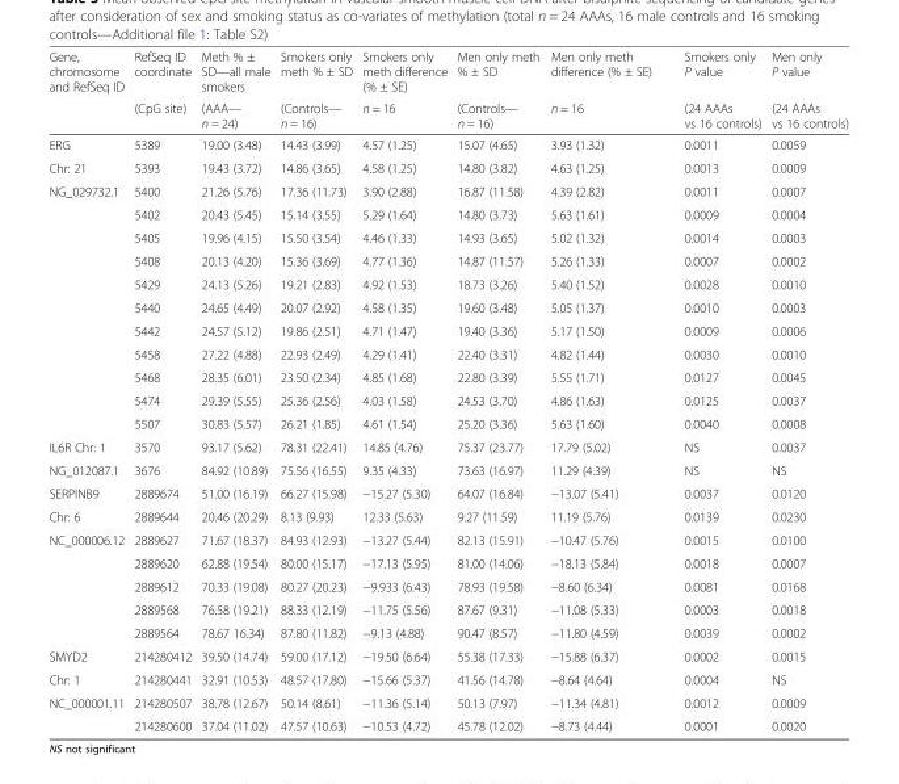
<table><thead><tr><td rowspan="2">Gene, chromosome and RefSeq ID</td><td rowspan="2">RefSeq ID coordinate (CpG site)</td><td rowspan="2">Meth % ± SD—all male smokers (AAA— n = 24)</td><td rowspan="2">Smokers only meth % ± SD (Controls— n = 16)</td><td rowspan="2">Smokers only meth difference (% ± SE) n = 16</td><td rowspan="2">Men only meth % ± SD (Controls— n = 16)</td><td rowspan="2">Men only meth difference (% ± SE) n = 16</td><td rowspan="2">Smokers only P value (24 AAAs vs 16 controls)</td><td rowspan="2">Men only P value (24 AAAs vs 16 controls)</td></tr><tr></tr></thead><tbody><tr><td>ERG</td><td>5389</td><td>19.00 (3.48)</td><td>14.43 (3.99)</td><td>4.57 (1.25)</td><td>15.07 (4.65)</td><td>3.93 (1.32)</td><td>0.0011</td><td>0.0059</td></tr><tr><td>Chr: 21</td><td>5393</td><td>19.43 (3.72)</td><td>14.86 (3.65)</td><td>4.58 (1.25)</td><td>14.80 (3.82)</td><td>4.63 (1.25)</td><td>0.0013</td><td>0.0009</td></tr><tr><td rowspan="11">NG_029732.1</td><td>5400</td><td>21.26 (5.76)</td><td>17.36 (11.73)</td><td>3.90 (2.88)</td><td>16.87 (11.58)</td><td>4.39 (2.82)</td><td>0.0011</td><td>0.0007</td></tr><tr><td>5402</td><td>20.43 (5.45)</td><td>15.14 (3.55)</td><td>5.29 (1.64)</td><td>14.80 (3.73)</td><td>5.63 (1.61)</td><td>0.0009</td><td>0.0004</td></tr><tr><td>5405</td><td>19.96 (4.15)</td><td>15.50 (3.54)</td><td>4.46 (1.33)</td><td>14.93 (3.65)</td><td>5.02 (1.32)</td><td>0.0014</td><td>0.0003</td></tr><tr><td>5408</td><td>20.13 (4.20)</td><td>15.36 (3.69)</td><td>4.77 (1.36)</td><td>14.87 (11.57)</td><td>5.26 (1.33)</td><td>0.0007</td><td>0.0002</td></tr><tr><td>5429</td><td>24.13 (5.26)</td><td>19.21 (2.83)</td><td>4.92 (1.53)</td><td>18.73 (3.26)</td><td>5.40 (1.52)</td><td>0.0028</td><td>0.0010</td></tr><tr><td>5440</td><td>24.65 (4.49)</td><td>20.07 (2.92)</td><td>4.58 (1.35)</td><td>19.60 (3.48)</td><td>5.05 (1.37)</td><td>0.0010</td><td>0.0003</td></tr><tr><td>5442</td><td>24.57 (5.12)</td><td>19.86 (2.51)</td><td>4.71 (1.47)</td><td>19.40 (3.36)</td><td>5.17 (1.50)</td><td>0.0009</td><td>0.0006</td></tr><tr><td>5458</td><td>27.22 (4.88)</td><td>22.93 (2.49)</td><td>4.29 (1.41)</td><td>22.40 (3.31)</td><td>4.82 (1.44)</td><td>0.0030</td><td>0.0010</td></tr><tr><td>5468</td><td>28.35 (6.01)</td><td>23.50 (2.34)</td><td>4.85 (1.68)</td><td>22.80 (3.39)</td><td>5.55 (1.71)</td><td>0.0127</td><td>0.0045</td></tr><tr><td>5474</td><td>29.39 (5.55)</td><td>25.36 (2.56)</td><td>4.03 (1.58)</td><td>24.53 (3.70)</td><td>4.86 (1.63)</td><td>0.0125</td><td>0.0037</td></tr><tr><td>5507</td><td>30.83 (5.57)</td><td>26.21 (1.85)</td><td>4.61 (1.54)</td><td>25.20 (3.36)</td><td>5.63 (1.60)</td><td>0.0040</td><td>0.0008</td></tr><tr><td>IL6R Chr: 1</td><td>3570</td><td>93.17 (5.62)</td><td>78.31 (22.41)</td><td>14.85 (4.76)</td><td>75.37 (23.77)</td><td>17.79 (5.02)</td><td>NS</td><td>0.0037</td></tr><tr><td>NG_012087.1</td><td>3676</td><td>84.92 (10.89)</td><td>75.56 (16.55)</td><td>9.35 (4.33)</td><td>73.63 (16.97)</td><td>11.29 (4.39)</td><td>NS</td><td>NS</td></tr><tr><td>SERPINB9</td><td>2889674</td><td>51.00 (16.19)</td><td>66.27 (15.98)</td><td>−15.27 (5.30)</td><td>64.07 (16.84)</td><td>−13.07 (5.41)</td><td>0.0037</td><td>0.0120</td></tr><tr><td>Chr: 6</td><td>2889644</td><td>20.46 (20.29)</td><td>8.13 (9.93)</td><td>12.33 (5.63)</td><td>9.27 (11.59)</td><td>11.19 (5.76)</td><td>0.0139</td><td>0.0230</td></tr><tr><td rowspan="5">NC_000006.12</td><td>2889627</td><td>71.67 (18.37)</td><td>84.93 (12.93)</td><td>−13.27 (5.44)</td><td>82.13 (15.91)</td><td>−10.47 (5.76)</td><td>0.0015</td><td>0.0100</td></tr><tr><td>2889620</td><td>62.88 (19.54)</td><td>80.00 (15.17)</td><td>−17.13 (5.95)</td><td>81.00 (14.06)</td><td>−18.13 (5.84)</td><td>0.0018</td><td>0.0007</td></tr><tr><td>2889612</td><td>70.33 (19.08)</td><td>80.27 (20.23)</td><td>−9.933 (6.43)</td><td>78.93 (19.58)</td><td>−8.60 (6.34)</td><td>0.0081</td><td>0.0168</td></tr><tr><td>2889568</td><td>76.58 (19.21)</td><td>88.33 (12.19)</td><td>−11.75 (5.56)</td><td>87.67 (9.31)</td><td>−11.08 (5.33)</td><td>0.0003</td><td>0.0018</td></tr><tr><td>2889564</td><td>78.67 16.34)</td><td>87.80 (11.82)</td><td>−9.13 (4.88)</td><td>90.47 (8.57)</td><td>−11.80 (4.59)</td><td>0.0039</td><td>0.0002</td></tr><tr><td>SMYD2</td><td>214280412</td><td>39.50 (14.74)</td><td>59.00 (17.12)</td><td>−19.50 (6.64)</td><td>55.38 (17.33)</td><td>−15.88 (6.37)</td><td>0.0002</td><td>0.0015</td></tr><tr><td>Chr: 1</td><td>214280441</td><td>32.91 (10.53)</td><td>48.57 (17.80)</td><td>−15.66 (5.37)</td><td>41.56 (14.78)</td><td>−8.64 (4.64)</td><td>0.0004</td><td>NS</td></tr><tr><td rowspan="2">NC_000001.11</td><td>214280507</td><td>38.78 (12.67)</td><td>50.14 (8.61)</td><td>−11.36 (5.14)</td><td>50.13 (7.97)</td><td>−11.34 (4.81)</td><td>0.0012</td><td>0.0009</td></tr><tr><td>214280600</td><td>37.04 (11.02)</td><td>47.57 (10.63)</td><td>−10.53 (4.72)</td><td>45.78 (12.02)</td><td>−8.73 (4.44)</td><td>0.0001</td><td>0.0020</td></tr></tbody></table>